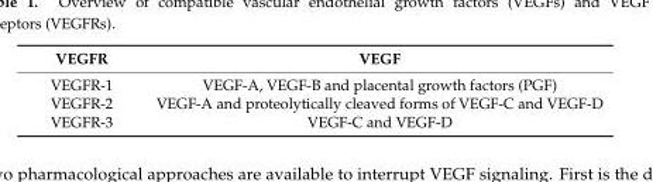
<table><thead><tr><td>VEGFR</td><td>VEGF</td></tr></thead><tbody><tr><td>VEGFR-1</td><td>VEGF-A, VEGF-B and placental growth factors (PGF)</td></tr><tr><td>VEGFR-2</td><td>VEGF-A and proteolytically cleaved forms of VEGF-C and VEGF-D</td></tr><tr><td>VEGFR-3</td><td>VEGF-C and VEGF-D</td></tr></tbody></table>